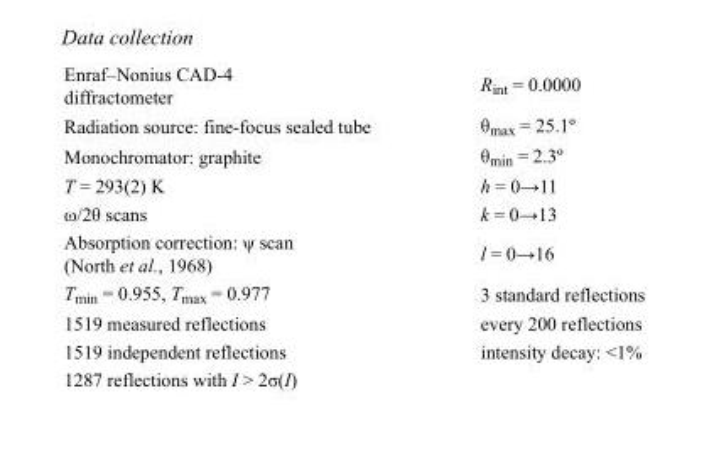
<table><tbody><tr><td>Enraf–Nonius CAD-4 diffractometer</td><td>R<sub>int</sub> = 0.0000</td></tr><tr><td>Radiation source: fine-focus sealed tube</td><td>θ<sub>max</sub> = 25.1º</td></tr><tr><td>Monochromator: graphite</td><td>θ<sub>min</sub> = 2.3º</td></tr><tr><td>T = 293(2) K</td><td>h = 0→11</td></tr><tr><td>ω/2θ scans</td><td>k = 0→13</td></tr><tr><td>Absorption correction: ψ scan (North et al., 1968)</td><td>l = 0→16</td></tr><tr><td>T<sub>min</sub> = 0.955, T<sub>max</sub> = 0.977</td><td>3 standard reflections</td></tr><tr><td>1519 measured reflections</td><td>every 200 reflections</td></tr><tr><td>1519 independent reflections</td><td>intensity decay: &lt;1%</td></tr><tr><td>1287 reflections with I &gt; 2σ(I)</td><td></td></tr></tbody></table>